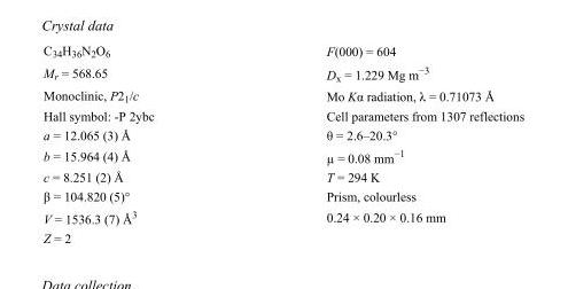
<table><tbody><tr><td>C<sub>34</sub>H<sub>36</sub>N<sub>2</sub>O<sub>6</sub></td><td>F(000) = 604</td></tr><tr><td>M<sub>r</sub> = 568.65</td><td>D<sub>x</sub> = 1.229 Mg m<sup>−3</sup></td></tr><tr><td>Monoclinic, P2<sub>1</sub>/c</td><td>Mo Kα radiation, λ = 0.71073 Å</td></tr><tr><td>Hall symbol: -P 2ybc</td><td>Cell parameters from 1307 reflections</td></tr><tr><td>a = 12.065 (3) Å</td><td>θ = 2.6–20.3°</td></tr><tr><td>b = 15.964 (4) Å</td><td>µ = 0.08 mm<sup>−1</sup></td></tr><tr><td>c = 8.251 (2) Å</td><td>T = 294 K</td></tr><tr><td>β = 104.820 (5)°</td><td>Prism, colourless</td></tr><tr><td>V = 1536.3 (7) Å<sup>3</sup></td><td>0.24 × 0.20 × 0.16 mm</td></tr><tr><td>Z = 2</td><td></td></tr></tbody></table>